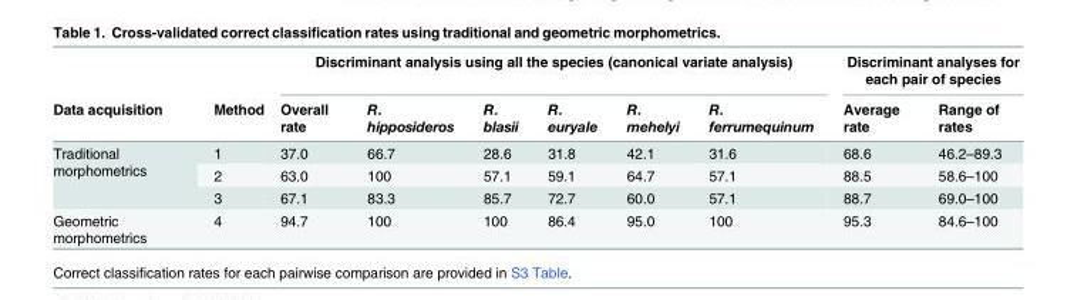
<table><thead><tr><td rowspan="2">Data acquisition</td><td rowspan="2">Method</td><td colspan="6">Discriminant analysis using all the species (canonical variate analysis)</td><td colspan="2">Discriminant analyses for each pair of species</td></tr><tr><td>Overall rate</td><td>R. hipposideros</td><td>R. blasii</td><td>R. euryale</td><td>R. mehelyi</td><td>R. ferrumequinum</td><td>Average rate</td><td>Range of rates</td></tr></thead><tbody><tr><td rowspan="3">Traditional morphometrics</td><td>1</td><td>37.0</td><td>66.7</td><td>28.6</td><td>31.8</td><td>42.1</td><td>31.6</td><td>68.6</td><td>46.2–89.3</td></tr><tr><td>2</td><td>63.0</td><td>100</td><td>57.1</td><td>59.1</td><td>64.7</td><td>57.1</td><td>88.5</td><td>58.6–100</td></tr><tr><td>3</td><td>67.1</td><td>83.3</td><td>85.7</td><td>72.7</td><td>60.0</td><td>57.1</td><td>88.7</td><td>69.0–100</td></tr><tr><td>Geometric morphometrics</td><td>4</td><td>94.7</td><td>100</td><td>100</td><td>86.4</td><td>95.0</td><td>100</td><td>95.3</td><td>84.6–100</td></tr></tbody></table>